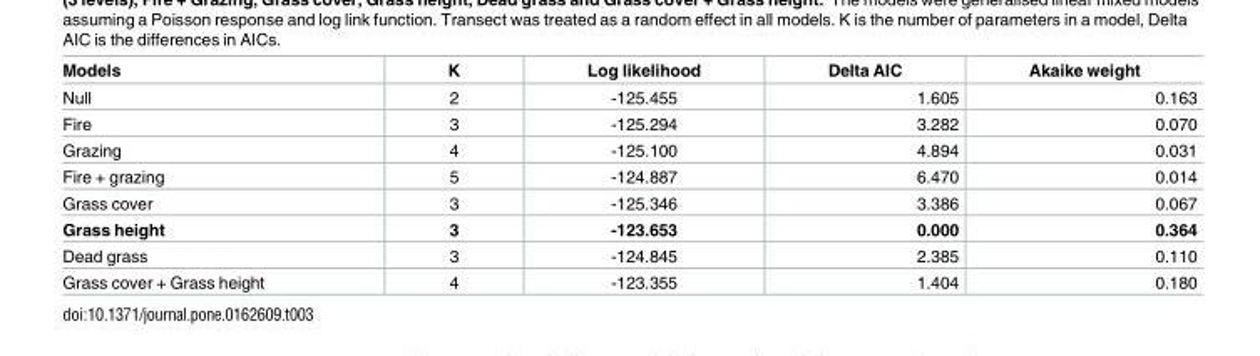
<table><thead><tr><td>Models</td><td>K</td><td>Log likelihood</td><td>Delta AIC</td><td>Akaike weight</td></tr></thead><tbody><tr><td>Null</td><td>2</td><td>-125.455</td><td>1.605</td><td>0.163</td></tr><tr><td>Fire</td><td>3</td><td>-125.294</td><td>3.282</td><td>0.070</td></tr><tr><td>Grazing</td><td>4</td><td>-125.100</td><td>4.894</td><td>0.031</td></tr><tr><td>Fire + grazing</td><td>5</td><td>-124.887</td><td>6.470</td><td>0.014</td></tr><tr><td>Grass cover</td><td>3</td><td>-125.346</td><td>3.386</td><td>0.067</td></tr><tr><td>Grass height</td><td>3</td><td>-123.653</td><td>0.000</td><td>0.364</td></tr><tr><td>Dead grass</td><td>3</td><td>-124.845</td><td>2.385</td><td>0.110</td></tr><tr><td>Grass cover + Grass height</td><td>4</td><td>-123.355</td><td>1.404</td><td>0.180</td></tr></tbody></table>